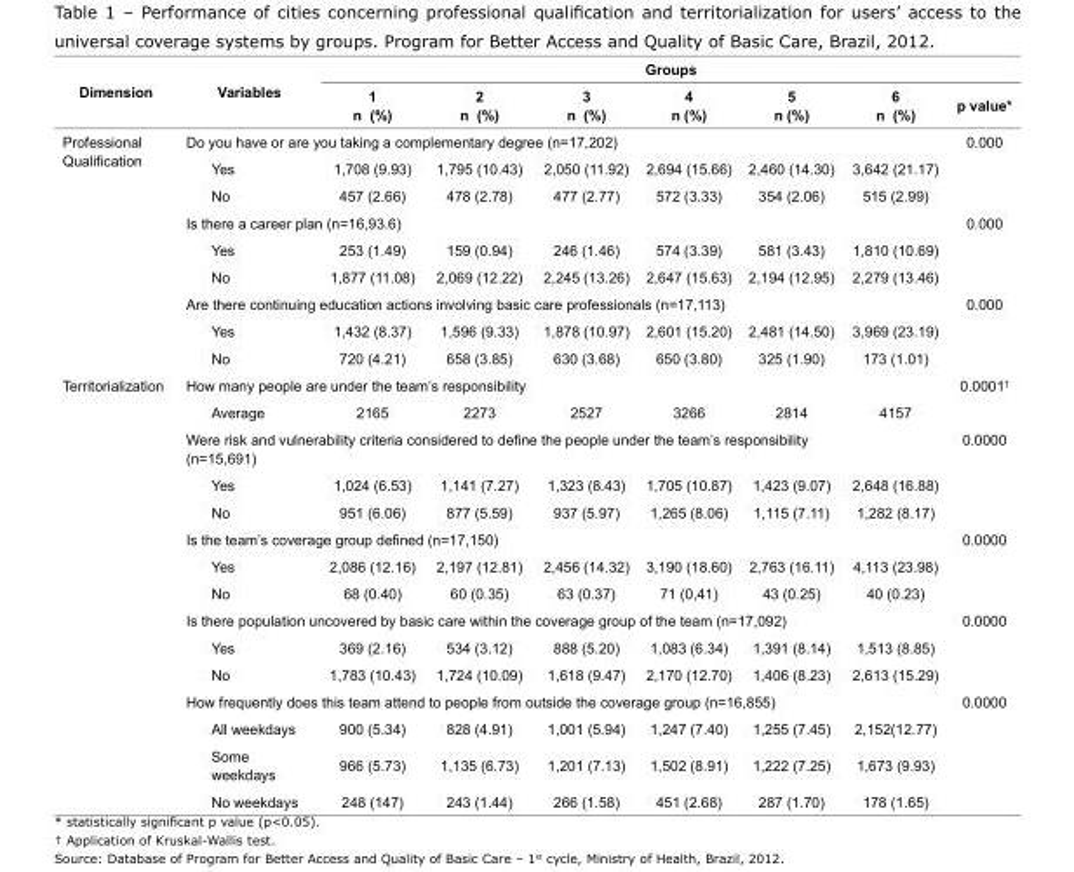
<table><thead><tr><td rowspan="2">Dimension</td><td rowspan="2">Variables</td><td colspan="7">Groups</td></tr><tr><td>1 n (%)</td><td>2 n (%)</td><td>3 n (%)</td><td>4 n (%)</td><td>5 n (%)</td><td>6 n (%)</td><td>p value*</td></tr></thead><tbody><tr><td rowspan="9">Professional Qualification</td><td colspan="7">Do you have or are you taking a complementary degree (n=17,202)</td><td>0.000</td></tr><tr><td>Yes</td><td>1,708 (9.93)</td><td>1,795 (10.43)</td><td>2,050 (11.92)</td><td>2,694 (15.66)</td><td>2,460 (14.30)</td><td>3,642 (21.17)</td><td></td></tr><tr><td>No</td><td>457 (2.66)</td><td>478 (2.78)</td><td>477 (2.77)</td><td>572 (3.33)</td><td>354 (2.06)</td><td>515 (2.99)</td><td></td></tr><tr><td colspan="7">Is there a career plan (n=16,93.6)</td><td>0.000</td></tr><tr><td>Yes</td><td>253 (1.49)</td><td>159 (0.94)</td><td>246 (1.46)</td><td>574 (3.39)</td><td>581 (3.43)</td><td>1,810 (10.69)</td><td></td></tr><tr><td>No</td><td>1,877 (11.08)</td><td>2,069 (12.22)</td><td>2,245 (13.26)</td><td>2,647 (15.63)</td><td>2,194 (12.95)</td><td>2,279 (13.46)</td><td></td></tr><tr><td colspan="7">Are there continuing education actions involving basic care professionals (n=17,113)</td><td>0.000</td></tr><tr><td>Yes</td><td>1,432 (8.37)</td><td>1,596 (9.33)</td><td>1,878 (10.97)</td><td>2,601 (15.20)</td><td>2,481 (14.50)</td><td>3,969 (23.19)</td><td></td></tr><tr><td>No</td><td>720 (4.21)</td><td>658 (3.85)</td><td>630 (3.68)</td><td>650 (3.80)</td><td>325 (1.90)</td><td>173 (1.01)</td><td></td></tr><tr><td rowspan="15">Territorialization</td><td colspan="7">How many people are under the team’s responsibility</td><td>0.0001†</td></tr><tr><td>Average</td><td>2165</td><td>2273</td><td>2527</td><td>3266</td><td>2814</td><td>4157</td><td></td></tr><tr><td colspan="7">Were risk and vulnerability criteria considered to define the people under the team’s responsibility (n=15,691)</td><td>0.0000</td></tr><tr><td>Yes</td><td>1,024 (6.53)</td><td>1,141 (7.27)</td><td>1,323 (8.43)</td><td>1,705 (10.87)</td><td>1,423 (9.07)</td><td>2,648 (16.88)</td><td></td></tr><tr><td>No</td><td>951 (6.06)</td><td>877 (5.59)</td><td>937 (5.97)</td><td>1,265 (8.06)</td><td>1,115 (7.11)</td><td>1,282 (8.17)</td><td></td></tr><tr><td colspan="7">Is the team’s coverage group defined (n=17,150)</td><td>0.0000</td></tr><tr><td>Yes</td><td>2,086 (12.16)</td><td>2,197 (12.81)</td><td>2,456 (14.32)</td><td>3,190 (18.60)</td><td>2,763 (16.11)</td><td>4,113 (23.98)</td><td></td></tr><tr><td>No</td><td>68 (0.40)</td><td>60 (0.35)</td><td>63 (0.37)</td><td>71 (0,41)</td><td>43 (0.25)</td><td>40 (0.23)</td><td></td></tr><tr><td colspan="7">Is there population uncovered by basic care within the coverage group of the team (n=17,092)</td><td>0.0000</td></tr><tr><td>Yes</td><td>369 (2.16)</td><td>534 (3.12)</td><td>888 (5.20)</td><td>1,083 (6.34)</td><td>1,391 (8.14)</td><td>1,513 (8.85)</td><td></td></tr><tr><td>No</td><td>1,783 (10.43)</td><td>1,724 (10.09)</td><td>1,618 (9.47)</td><td>2,170 (12.70)</td><td>1,406 (8.23)</td><td colspan="2">2,613 (15.29)</td></tr><tr><td colspan="7">How frequently does this team attend to people from outside the coverage group (n=16,855)</td><td>0.0000</td></tr><tr><td>All weekdays</td><td>900 (5.34)</td><td>828 (4.91)</td><td>1,001 (5.94)</td><td>1,247 (7.40)</td><td>1,255 (7.45)</td><td>2,152(12.77)</td><td></td></tr><tr><td>Some weekdays</td><td>966 (5.73)</td><td>1,135 (6.73)</td><td>1,201 (7.13)</td><td>1,502 (8.91)</td><td>1,222 (7.25)</td><td>1,673 (9.93)</td><td></td></tr><tr><td>No weekdays</td><td>248 (147)</td><td>243 (1.44)</td><td>266 (1.58)</td><td>451 (2.68)</td><td>287 (1.70)</td><td>178 (1.65)</td><td></td></tr></tbody></table>